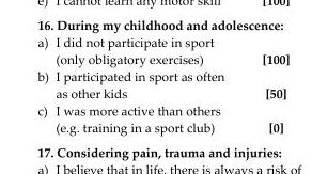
<table><tbody><tr><td>a) I did not participate in sport (only obligatory exercises)</td><td>[100]</td></tr><tr><td>b) I participated in sport as often as other kids</td><td>[50]</td></tr><tr><td>c) I was more active than others (e.g. training in a sport club)</td><td>[0]</td></tr></tbody></table>